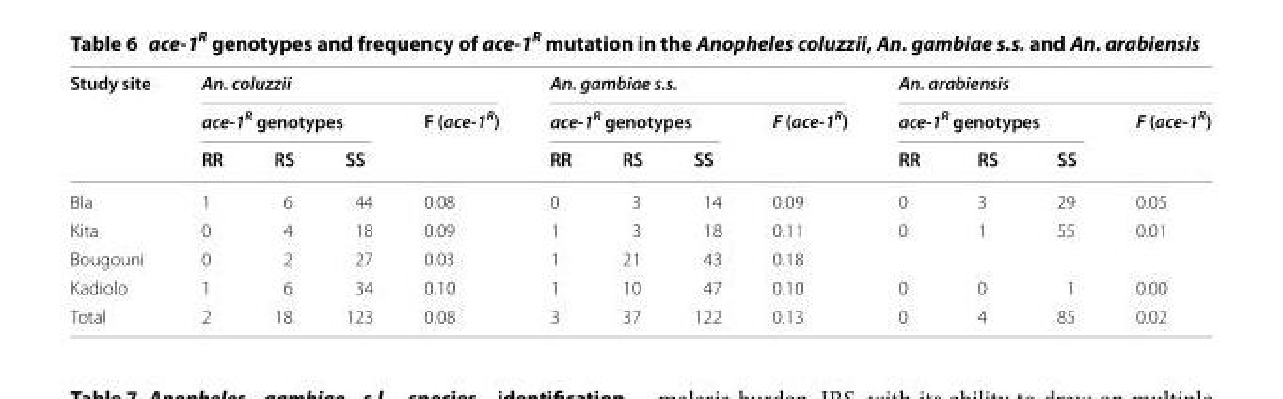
<table><thead><tr><td rowspan="3">Study site</td><td colspan="4">An. coluzzii</td><td colspan="4">An. gambiae s.s.</td><td colspan="4">An. arabiensis</td></tr><tr><td colspan="3">ace-1<sup>R</sup> genotypes</td><td rowspan="2">F (ace-1<sup>R</sup>)</td><td colspan="3">ace-1<sup>R</sup> genotypes</td><td rowspan="2">F (ace-1<sup>R</sup>)</td><td colspan="3">ace-1<sup>R</sup> genotypes</td><td rowspan="2">F (ace-1<sup>R</sup>)</td></tr><tr><td>RR</td><td>RS</td><td>SS</td><td>RR</td><td>RS</td><td>SS</td><td>RR</td><td>RS</td><td>SS</td></tr></thead><tbody><tr><td>Bla</td><td>1</td><td>6</td><td>44</td><td>0.08</td><td>0</td><td>3</td><td>14</td><td>0.09</td><td>0</td><td>3</td><td>29</td><td>0.05</td></tr><tr><td>Kita</td><td>0</td><td>4</td><td>18</td><td>0.09</td><td>1</td><td>3</td><td>18</td><td>0.11</td><td>0</td><td>1</td><td>55</td><td>0.01</td></tr><tr><td>Bougouni</td><td>0</td><td>2</td><td>27</td><td>0.03</td><td>1</td><td>21</td><td>43</td><td>0.18</td><td></td><td></td><td></td><td></td></tr><tr><td>Kadiolo</td><td>1</td><td>6</td><td>34</td><td>0.10</td><td>1</td><td>10</td><td>47</td><td>0.10</td><td>0</td><td>0</td><td>1</td><td>0.00</td></tr><tr><td>Total</td><td>2</td><td>18</td><td>123</td><td>0.08</td><td>3</td><td>37</td><td>122</td><td>0.13</td><td>0</td><td>4</td><td>85</td><td>0.02</td></tr></tbody></table>